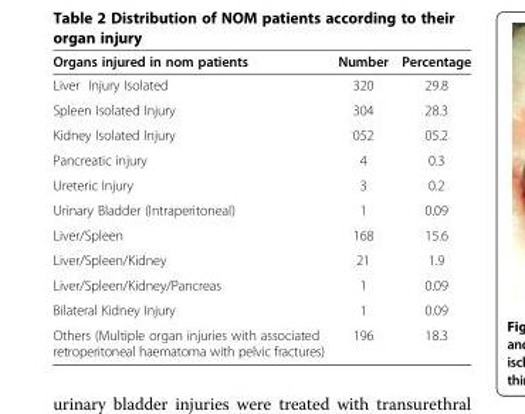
<table><thead><tr><td>Organs injured in nom patients</td><td>Number</td><td>Percentage</td></tr></thead><tbody><tr><td>Liver Injury Isolated</td><td>320</td><td>29.8</td></tr><tr><td>Spleen Isolated Injury</td><td>304</td><td>28.3</td></tr><tr><td>Kidney Isolated Injury</td><td>052</td><td>05.2</td></tr><tr><td>Pancreatic injury</td><td>4</td><td>0.3</td></tr><tr><td>Ureteric Injury</td><td>3</td><td>0.2</td></tr><tr><td>Urinary Bladder (Intraperitoneal)</td><td>1</td><td>0.09</td></tr><tr><td>Liver/Spleen</td><td>168</td><td>15.6</td></tr><tr><td>Liver/Spleen/Kidney</td><td>21</td><td>1.9</td></tr><tr><td>Liver/Spleen/Kidney/Pancreas</td><td>1</td><td>0.09</td></tr><tr><td>Bilateral Kidney Injury</td><td>1</td><td>0.09</td></tr><tr><td>Others (Multiple organ injuries with associated retroperitoneal haematoma with pelvic fractures)</td><td>196</td><td>18.3</td></tr></tbody></table>